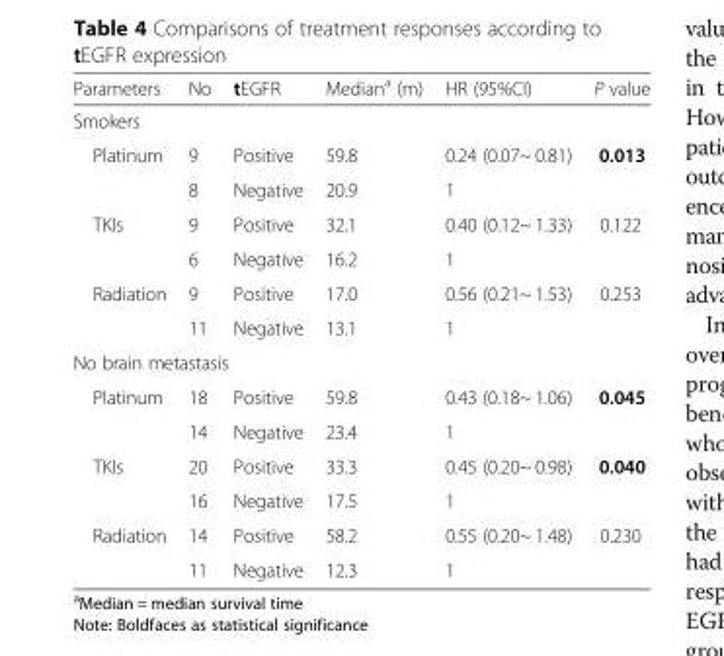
<table><thead><tr><td>Parameters</td><td>No</td><td>tEGFR</td><td>Median<sup>a</sup> (m)</td><td>HR (95%CI)</td><td>P value</td></tr></thead><tbody><tr><td colspan="6">Smokers</td></tr><tr><td rowspan="2">Platinum</td><td>9</td><td>Positive</td><td>59.8</td><td>0.24 (0.07~ 0.81)</td><td>0.013</td></tr><tr><td>8</td><td>Negative</td><td>20.9</td><td>1</td><td></td></tr><tr><td rowspan="2">TKIs</td><td>9</td><td>Positive</td><td>32.1</td><td>0.40 (0.12~ 1.33)</td><td>0.122</td></tr><tr><td>6</td><td>Negative</td><td>16.2</td><td>1</td><td></td></tr><tr><td rowspan="2">Radiation</td><td>9</td><td>Positive</td><td>17.0</td><td>0.56 (0.21~ 1.53)</td><td>0.253</td></tr><tr><td>11</td><td>Negative</td><td>13.1</td><td>1</td><td></td></tr><tr><td colspan="6">No brain metastasis</td></tr><tr><td rowspan="2">Platinum</td><td>18</td><td>Positive</td><td>59.8</td><td>0.43 (0.18~ 1.06)</td><td>0.045</td></tr><tr><td>14</td><td>Negative</td><td>23.4</td><td>1</td><td></td></tr><tr><td rowspan="2">TKIs</td><td>20</td><td>Positive</td><td>33.3</td><td>0.45 (0.20~ 0.98)</td><td>0.040</td></tr><tr><td>16</td><td>Negative</td><td>17.5</td><td>1</td><td></td></tr><tr><td rowspan="2">Radiation</td><td>14</td><td>Positive</td><td>58.2</td><td>0.55 (0.20~ 1.48)</td><td>0.230</td></tr><tr><td>11</td><td>Negative</td><td>12.3</td><td>1</td><td></td></tr></tbody></table>